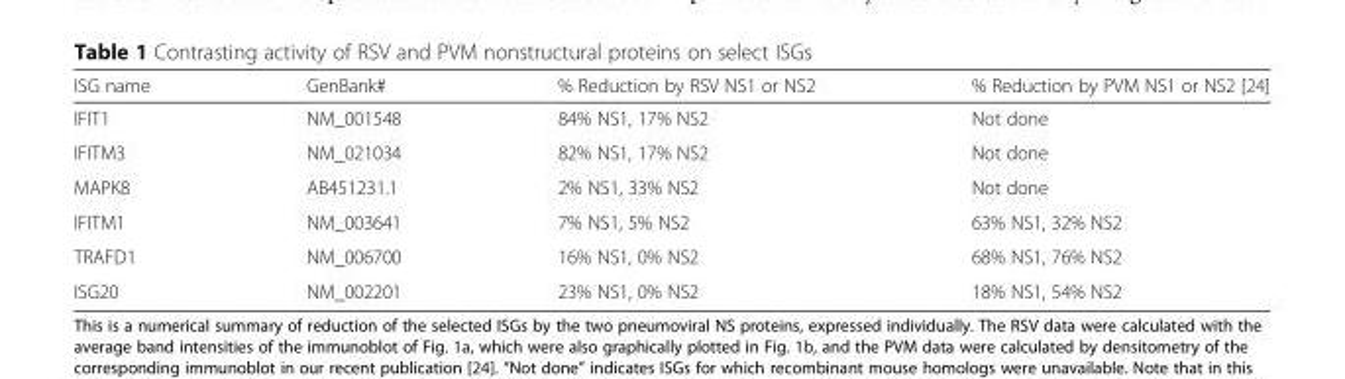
<table><thead><tr><td>ISG name</td><td>GenBank#</td><td>% Reduction by RSV NS1 or NS2</td><td>% Reduction by PVM NS1 or NS2 [24]</td></tr></thead><tbody><tr><td>IFIT1</td><td>NM_001548</td><td>84% NS1, 17% NS2</td><td>Not done</td></tr><tr><td>IFITM3</td><td>NM_021034</td><td>82% NS1, 17% NS2</td><td>Not done</td></tr><tr><td>MAPK8</td><td>AB451231.1</td><td>2% NS1, 33% NS2</td><td>Not done</td></tr><tr><td>IFITM1</td><td>NM_003641</td><td>7% NS1, 5% NS2</td><td>63% NS1, 32% NS2</td></tr><tr><td>TRAFD1</td><td>NM_006700</td><td>16% NS1, 0% NS2</td><td>68% NS1, 76% NS2</td></tr><tr><td>ISG20</td><td>NM_002201</td><td>23% NS1, 0% NS2</td><td>18% NS1, 54% NS2</td></tr></tbody></table>